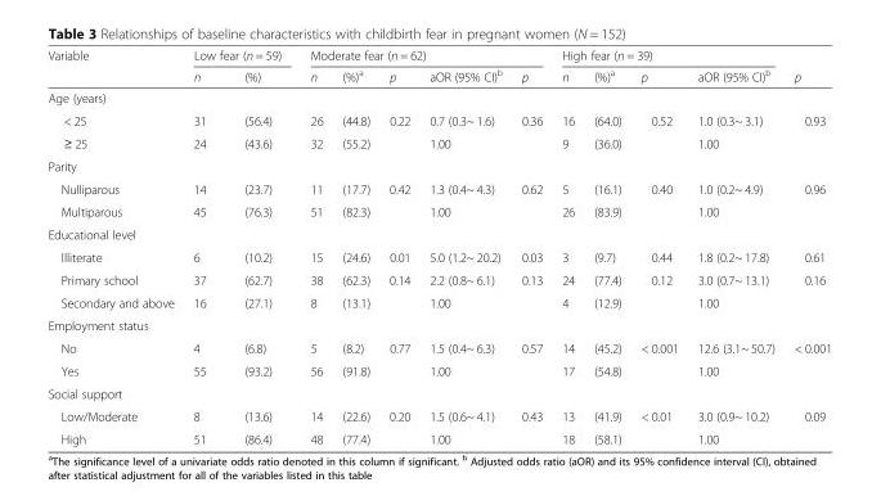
<table><thead><tr><td rowspan="2">Variable</td><td colspan="2">Low fear (n = 59)</td><td colspan="5">Moderate fear (n = 62)</td><td colspan="4">High fear (n = 39)</td><td rowspan="2">p</td></tr><tr><td>n</td><td>(%)</td><td>n</td><td>(%)<sup>a</sup></td><td>p</td><td>aOR (95% CI)<sup>b</sup></td><td>p</td><td>n</td><td>(%)<sup>a</sup></td><td>p</td><td>aOR (95% CI)<sup>b</sup></td></tr></thead><tbody><tr><td colspan="13">Age (years)</td></tr><tr><td>&lt; 25</td><td>31</td><td>(56.4)</td><td>26</td><td>(44.8)</td><td>0.22</td><td>0.7 (0.3~ 1.6)</td><td>0.36</td><td>16</td><td>(64.0)</td><td>0.52</td><td>1.0 (0.3~ 3.1)</td><td>0.93</td></tr><tr><td>≥ 25</td><td>24</td><td>(43.6)</td><td>32</td><td>(55.2)</td><td></td><td>1.00</td><td></td><td>9</td><td>(36.0)</td><td></td><td>1.00</td><td></td></tr><tr><td colspan="13">Parity</td></tr><tr><td>Nulliparous</td><td>14</td><td>(23.7)</td><td>11</td><td>(17.7)</td><td>0.42</td><td>1.3 (0.4~ 4.3)</td><td>0.62</td><td>5</td><td>(16.1)</td><td>0.40</td><td>1.0 (0.2~ 4.9)</td><td>0.96</td></tr><tr><td>Multiparous</td><td>45</td><td>(76.3)</td><td>51</td><td>(82.3)</td><td></td><td>1.00</td><td></td><td>26</td><td>(83.9)</td><td></td><td>1.00</td><td></td></tr><tr><td colspan="13">Educational level</td></tr><tr><td>Illiterate</td><td>6</td><td>(10.2)</td><td>15</td><td>(24.6)</td><td>0.01</td><td>5.0 (1.2~ 20.2)</td><td>0.03</td><td>3</td><td>(9.7)</td><td>0.44</td><td>1.8 (0.2~ 17.8)</td><td>0.61</td></tr><tr><td>Primary school</td><td>37</td><td>(62.7)</td><td>38</td><td>(62.3)</td><td>0.14</td><td>2.2 (0.8~ 6.1)</td><td>0.13</td><td>24</td><td>(77.4)</td><td>0.12</td><td>3.0 (0.7~ 13.1)</td><td>0.16</td></tr><tr><td>Secondary and above</td><td>16</td><td>(27.1)</td><td>8</td><td>(13.1)</td><td></td><td>1.00</td><td></td><td>4</td><td>(12.9)</td><td></td><td>1.00</td><td></td></tr><tr><td colspan="13">Employment status</td></tr><tr><td>No</td><td>4</td><td>(6.8)</td><td>5</td><td>(8.2)</td><td>0.77</td><td>1.5 (0.4~ 6.3)</td><td>0.57</td><td>14</td><td>(45.2)</td><td>&lt; 0.001</td><td>12.6 (3.1~ 50.7)</td><td>&lt; 0.001</td></tr><tr><td>Yes</td><td>55</td><td>(93.2)</td><td>56</td><td>(91.8)</td><td></td><td>1.00</td><td></td><td>17</td><td>(54.8)</td><td></td><td>1.00</td><td></td></tr><tr><td colspan="13">Social support</td></tr><tr><td>Low/Moderate</td><td>8</td><td>(13.6)</td><td>14</td><td>(22.6)</td><td>0.20</td><td>1.5 (0.6~ 4.1)</td><td>0.43</td><td>13</td><td>(41.9)</td><td>&lt; 0.01</td><td>3.0 (0.9~ 10.2)</td><td>0.09</td></tr><tr><td>High</td><td>51</td><td>(86.4)</td><td>48</td><td>(77.4)</td><td></td><td>1.00</td><td></td><td>18</td><td>(58.1)</td><td></td><td>1.00</td><td></td></tr></tbody></table>